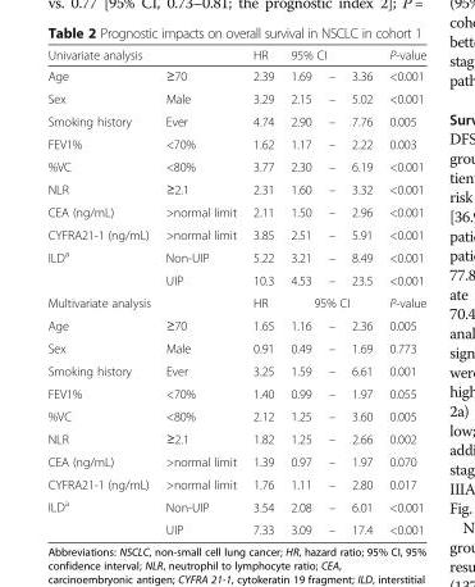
<table><thead><tr><td colspan="2">Univariate analysis</td><td rowspan="2">HR 2.39</td><td colspan="3">95% CI</td><td rowspan="2">P-value &lt;0.001</td></tr><tr><td>Age</td><td>≥70</td><td>1.69</td><td>–</td><td>3.36</td></tr></thead><tbody><tr><td>Sex</td><td>Male</td><td>3.29</td><td>2.15</td><td>–</td><td>5.02</td><td>&lt;0.001</td></tr><tr><td>Smoking history</td><td>Ever</td><td>4.74</td><td>2.90</td><td>–</td><td>7.76</td><td>0.005</td></tr><tr><td>FEV1%</td><td>&lt;70%</td><td>1.62</td><td>1.17</td><td>–</td><td>2.22</td><td>0.003</td></tr><tr><td>%VC</td><td>&lt;80%</td><td>3.77</td><td>2.30</td><td>–</td><td>6.19</td><td>&lt;0.001</td></tr><tr><td>NLR</td><td>≥2.1</td><td>2.31</td><td>1.60</td><td>–</td><td>3.32</td><td>&lt;0.001</td></tr><tr><td>CEA (ng/mL)</td><td>&gt;normal limit</td><td>2.11</td><td>1.50</td><td>–</td><td>2.96</td><td>&lt;0.001</td></tr><tr><td>CYFRA21-1 (ng/mL)</td><td>&gt;normal limit</td><td>3.85</td><td>2.51</td><td>–</td><td>5.91</td><td>&lt;0.001</td></tr><tr><td rowspan="2">ILD<sup>a</sup></td><td>Non-UIP</td><td>5.22</td><td>3.21</td><td>–</td><td>8.49</td><td>&lt;0.001</td></tr><tr><td>UIP</td><td>10.3</td><td>4.53</td><td>–</td><td>23.5</td><td>&lt;0.001</td></tr><tr><td colspan="2">Multivariate analysis</td><td>HR</td><td colspan="3">95% CI</td><td>P-value</td></tr><tr><td>Age</td><td>≥70</td><td>1.65</td><td>1.16</td><td>–</td><td>2.36</td><td>0.005</td></tr><tr><td>Sex</td><td>Male</td><td>0.91</td><td>0.49</td><td>–</td><td>1.69</td><td>0.773</td></tr><tr><td>Smoking history</td><td>Ever</td><td>3.25</td><td>1.59</td><td>–</td><td>6.61</td><td>0.001</td></tr><tr><td>FEV1%</td><td>&lt;70%</td><td>1.40</td><td>0.99</td><td>–</td><td>1.97</td><td>0.055</td></tr><tr><td>%VC</td><td>&lt;80%</td><td>2.12</td><td>1.25</td><td>–</td><td>3.60</td><td>0.005</td></tr><tr><td>NLR</td><td>≥2.1</td><td>1.82</td><td>1.25</td><td>–</td><td>2.66</td><td>0.002</td></tr><tr><td>CEA (ng/mL)</td><td>&gt;normal limit</td><td>1.39</td><td>0.97</td><td>–</td><td>1.97</td><td>0.070</td></tr><tr><td>CYFRA21-1 (ng/mL)</td><td>&gt;normal limit</td><td>1.76</td><td>1.11</td><td>–</td><td>2.80</td><td>0.017</td></tr><tr><td rowspan="2">ILD<sup>a</sup></td><td>Non-UIP</td><td>3.54</td><td>2.08</td><td>–</td><td>6.01</td><td>&lt;0.001</td></tr><tr><td>UIP</td><td>7.33</td><td>3.09</td><td>–</td><td>17.4</td><td>&lt;0.001</td></tr></tbody></table>